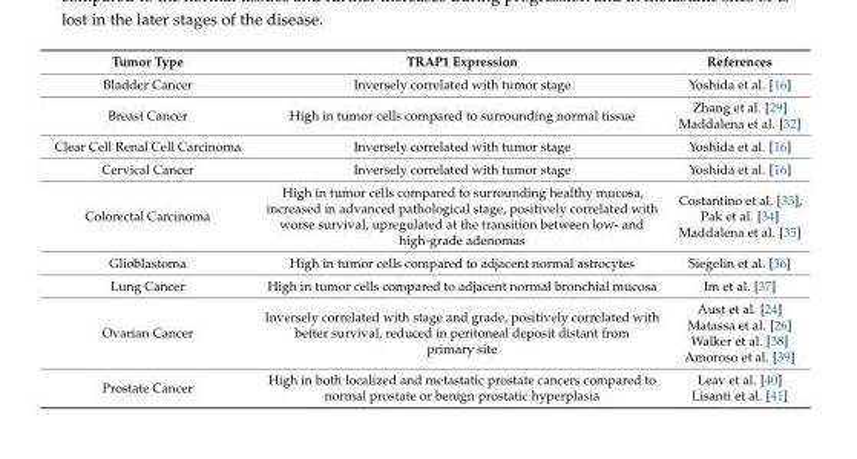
<table><thead><tr><td>Tumor Type</td><td>TRAP1 Expression</td><td>References</td></tr></thead><tbody><tr><td>Bladder Cancer</td><td>Inversely correlated with tumor stage</td><td>Yoshida et al. [16]</td></tr><tr><td>Breast Cancer</td><td>High in tumor cells compared to surrounding normal tissue</td><td>Zhang et al. [29] Maddalena et al. [32]</td></tr><tr><td>Clear Cell Renal Cell Carcinoma</td><td>Inversely correlated with tumor stage</td><td>Yoshida et al. [16]</td></tr><tr><td>Cervical Cancer</td><td>Inversely correlated with tumor stage</td><td>Yoshida et al. [16]</td></tr><tr><td>Colorectal Carcinoma</td><td>High in tumor cells compared to surrounding healthy mucosa, increased in advanced pathological stage, positively correlated with worse survival, upregulated at the transition between low- and high-grade adenomas</td><td>Costantino et al. [33], Pak et al. [34] Maddalena et al. [35]</td></tr><tr><td>Glioblastoma</td><td>High in tumor cells compared to adjacent normal astrocytes</td><td>Siegelin et al. [36]</td></tr><tr><td>Lung Cancer</td><td>High in tumor cells compared to adjacent normal bronchial mucosa</td><td>Im et al. [37]</td></tr><tr><td>Ovarian Cancer</td><td>Inversely correlated with stage and grade, positively correlated with better survival, reduced in peritoneal deposit distant from primary site</td><td>Aust et al. [24] Matassa et al. [26] Walker et al. [38] Amoroso et al. [39]</td></tr><tr><td>Prostate Cancer</td><td>High in both localized and metastatic prostate cancers compared to normal prostate or benign prostatic hyperplasia</td><td>Leav et al. [40] Lisanti et al. [41]</td></tr></tbody></table>